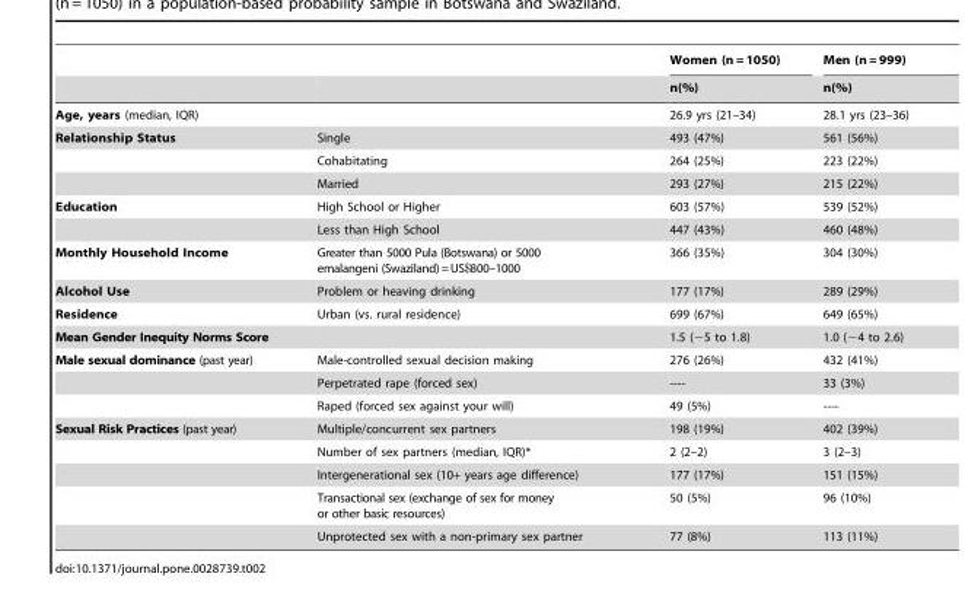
<table><thead><tr><td rowspan="2"></td><td rowspan="2"></td><td rowspan="2">Women (n = 1050) n(%)</td><td rowspan="2">Men (n = 999) n(%)</td></tr><tr></tr></thead><tbody><tr><td>Age, years (median, IQR)</td><td></td><td>26.9 yrs (21–34)</td><td>28.1 yrs (23–36)</td></tr><tr><td rowspan="3">Relationship Status</td><td>Single</td><td>493 (47%)</td><td>561 (56%)</td></tr><tr><td>Cohabitating</td><td>264 (25%)</td><td>223 (22%)</td></tr><tr><td>Married</td><td>293 (27%)</td><td>215 (22%)</td></tr><tr><td rowspan="2">Education</td><td>High School or Higher</td><td>603 (57%)</td><td>539 (52%)</td></tr><tr><td>Less than High School</td><td>447 (43%)</td><td>460 (48%)</td></tr><tr><td>Monthly Household Income</td><td>Greater than 5000 Pula (Botswana) or 5000 emalangeni (Swaziland)=US$800–1000</td><td>366 (35%)</td><td>304 (30%)</td></tr><tr><td>Alcohol Use</td><td>Problem or heaving drinking</td><td>177 (17%)</td><td>289 (29%)</td></tr><tr><td>Residence</td><td>Urban (vs. rural residence)</td><td>699 (67%)</td><td>649 (65%)</td></tr><tr><td>Mean Gender Inequity Norms Score</td><td></td><td>1.5 (−5 to 1.8)</td><td>1.0 (−4 to 2.6)</td></tr><tr><td rowspan="3">Male sexual dominance (past year)</td><td>Male-controlled sexual decision making</td><td>276 (26%)</td><td>432 (41%)</td></tr><tr><td>Perpetrated rape (forced sex)</td><td>----</td><td>33 (3%)</td></tr><tr><td>Raped (forced sex against your will)</td><td>49 (5%)</td><td>----</td></tr><tr><td rowspan="5">Sexual Risk Practices (past year)</td><td>Multiple/concurrent sex partners</td><td>198 (19%)</td><td>402 (39%)</td></tr><tr><td>Number of sex partners (median, IQR)*</td><td>2 (2–2)</td><td>3 (2–3)</td></tr><tr><td>Intergenerational sex (10+ years age difference)</td><td>177 (17%)</td><td>151 (15%)</td></tr><tr><td>Transactional sex (exchange of sex for money or other basic resources)</td><td>50 (5%)</td><td>96 (10%)</td></tr><tr><td>Unprotected sex with a non-primary sex partner</td><td>77 (8%)</td><td>113 (11%)</td></tr></tbody></table>